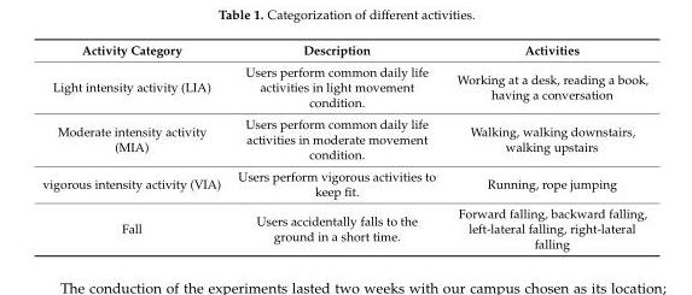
<table><thead><tr><td>Activity Category</td><td>Description</td><td>Activities</td></tr></thead><tbody><tr><td>Light intensity activity (LIA)</td><td>Users perform common daily life activities in light movement condition.</td><td>Working at a desk, reading a book, having a conversation</td></tr><tr><td>Moderate intensity activity (MIA)</td><td>Users perform common daily life activities in moderate movement condition.</td><td>Walking, walking downstairs, walking upstairs</td></tr><tr><td>vigorous intensity activity (VIA)</td><td>Users perform vigorous activities to keep fit.</td><td>Running, rope jumping</td></tr><tr><td>Fall</td><td>Users accidentally falls to the ground in a short time.</td><td>Forward falling, backward falling, left-lateral falling, right-lateral falling</td></tr></tbody></table>